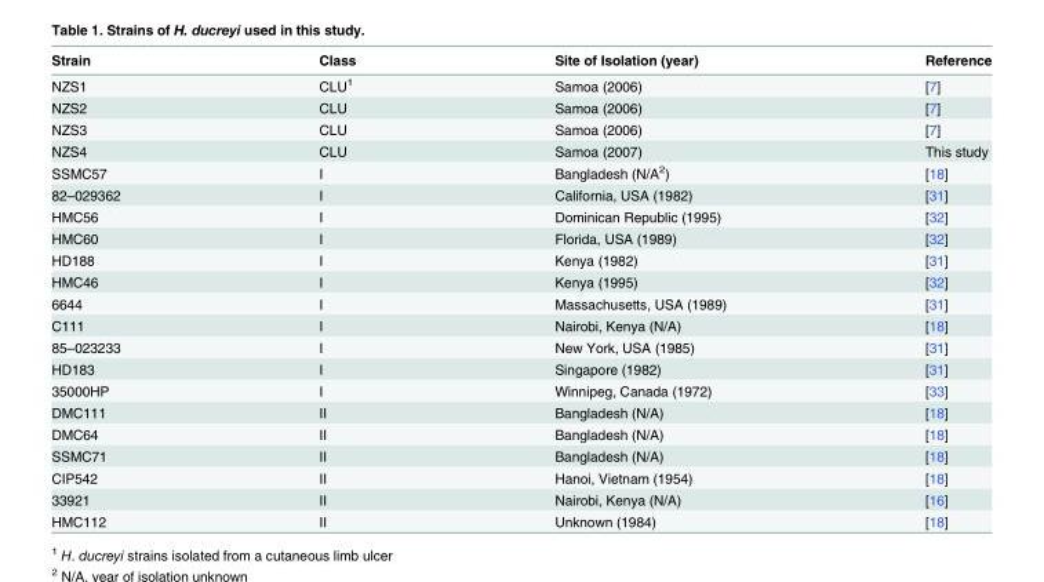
<table><thead><tr><td>Strain</td><td>Class</td><td>Site of Isolation (year)</td><td>Reference</td></tr></thead><tbody><tr><td>NZS1</td><td>CLU<sup>1</sup></td><td>Samoa (2006)</td><td>[7]</td></tr><tr><td>NZS2</td><td>CLU</td><td>Samoa (2006)</td><td>[7]</td></tr><tr><td>NZS3</td><td>CLU</td><td>Samoa (2006)</td><td>[7]</td></tr><tr><td>NZS4</td><td>CLU</td><td>Samoa (2007)</td><td>This study</td></tr><tr><td>SSMC57</td><td>I</td><td>Bangladesh (N/A<sup>2</sup>)</td><td>[18]</td></tr><tr><td>82–029362</td><td>I</td><td>California, USA (1982)</td><td>[31]</td></tr><tr><td>HMC56</td><td>I</td><td>Dominican Republic (1995)</td><td>[32]</td></tr><tr><td>HMC60</td><td>I</td><td>Florida, USA (1989)</td><td>[32]</td></tr><tr><td>HD188</td><td>I</td><td>Kenya (1982)</td><td>[31]</td></tr><tr><td>HMC46</td><td>I</td><td>Kenya (1995)</td><td>[32]</td></tr><tr><td>6644</td><td>I</td><td>Massachusetts, USA (1989)</td><td>[31]</td></tr><tr><td>C111</td><td>I</td><td>Nairobi, Kenya (N/A)</td><td>[18]</td></tr><tr><td>85–023233</td><td>I</td><td>New York, USA (1985)</td><td>[31]</td></tr><tr><td>HD183</td><td>I</td><td>Singapore (1982)</td><td>[31]</td></tr><tr><td>35000HP</td><td>I</td><td>Winnipeg, Canada (1972)</td><td>[33]</td></tr><tr><td>DMC111</td><td>II</td><td>Bangladesh (N/A)</td><td>[18]</td></tr><tr><td>DMC64</td><td>II</td><td>Bangladesh (N/A)</td><td>[18]</td></tr><tr><td>SSMC71</td><td>II</td><td>Bangladesh (N/A)</td><td>[18]</td></tr><tr><td>CIP542</td><td>II</td><td>Hanoi, Vietnam (1954)</td><td>[18]</td></tr><tr><td>33921</td><td>II</td><td>Nairobi, Kenya (N/A)</td><td>[16]</td></tr><tr><td>HMC112</td><td>II</td><td>Unknown (1984)</td><td>[18]</td></tr></tbody></table>